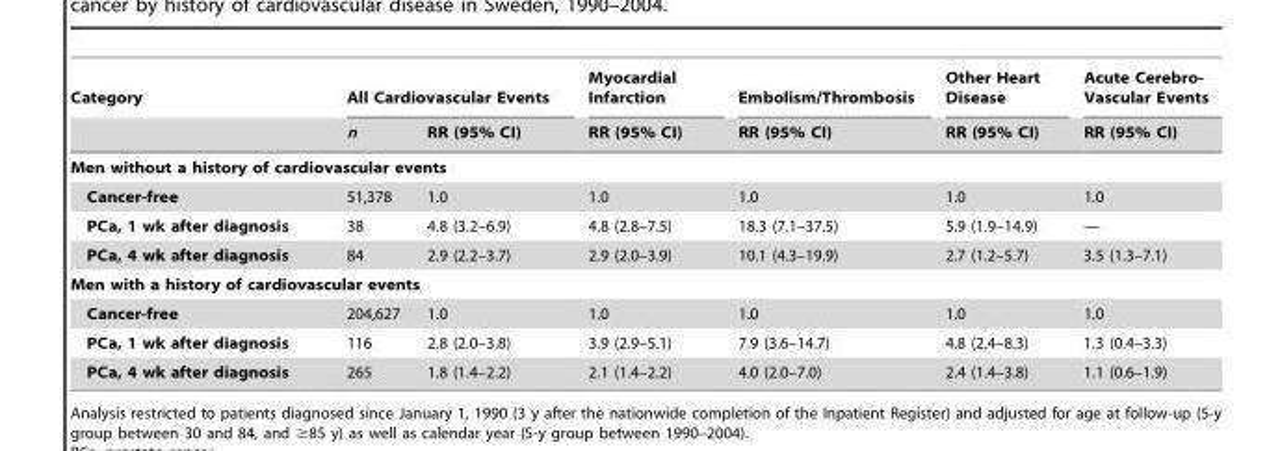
<table><thead><tr><td rowspan="2">Category</td><td colspan="2">All Cardiovascular Events</td><td rowspan="2">Myocardial Infarction RR (95% CI)</td><td rowspan="2">Embolism/Thrombosis RR (95% CI)</td><td rowspan="2">Other Heart Disease RR (95% CI)</td><td rowspan="2">Acute Cerebro- Vascular Events RR (95% CI)</td></tr><tr><td>n</td><td>RR (95% CI)</td></tr></thead><tbody><tr><td colspan="7">Men without a history of cardiovascular events</td></tr><tr><td>Cancer-free</td><td>51,378</td><td>1.0</td><td>1.0</td><td>1.0</td><td>1.0</td><td>1.0</td></tr><tr><td>PCa, 1 wk after diagnosis</td><td>38</td><td>4.8 (3.2–6.9)</td><td>4.8 (2.8–7.5)</td><td>18.3 (7.1–37.5)</td><td>5.9 (1.9–14.9)</td><td>—</td></tr><tr><td>PCa, 4 wk after diagnosis</td><td>84</td><td>2.9 (2.2–3.7)</td><td>2.9 (2.0–3.9)</td><td>10.1 (4.3–19.9)</td><td>2.7 (1.2–5.7)</td><td>3.5 (1.3–7.1)</td></tr><tr><td colspan="7">Men with a history of cardiovascular events</td></tr><tr><td>Cancer-free</td><td>204,627</td><td>1.0</td><td>1.0</td><td>1.0</td><td>1.0</td><td>1.0</td></tr><tr><td>PCa, 1 wk after diagnosis</td><td>116</td><td>2.8 (2.0–3.8)</td><td>3.9 (2.9–5.1)</td><td>7.9 (3.6–14.7)</td><td>4.8 (2.4–8.3)</td><td>1.3 (0.4–3.3)</td></tr><tr><td>PCa, 4 wk after diagnosis</td><td>265</td><td>1.8 (1.4–2.2)</td><td>2.1 (1.4–2.2)</td><td>4.0 (2.0–7.0)</td><td>2.4 (1.4–3.8)</td><td>1.1 (0.6–1.9)</td></tr></tbody></table>